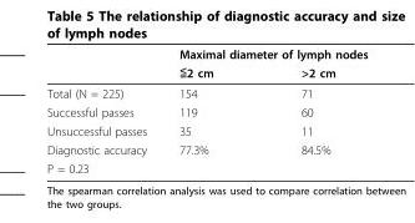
<table><thead><tr><td rowspan="2"></td><td colspan="2">Maximal diameter of lymph nodes</td></tr><tr><td>≦2 cm</td><td>&gt;2 cm</td></tr></thead><tbody><tr><td>Total (N = 225)</td><td>154</td><td>71</td></tr><tr><td>Successful passes</td><td>119</td><td>60</td></tr><tr><td>Unsuccessful passes</td><td>35</td><td>11</td></tr><tr><td>Diagnostic accuracy</td><td>77.3%</td><td>84.5%</td></tr><tr><td colspan="3">P = 0.23</td></tr></tbody></table>